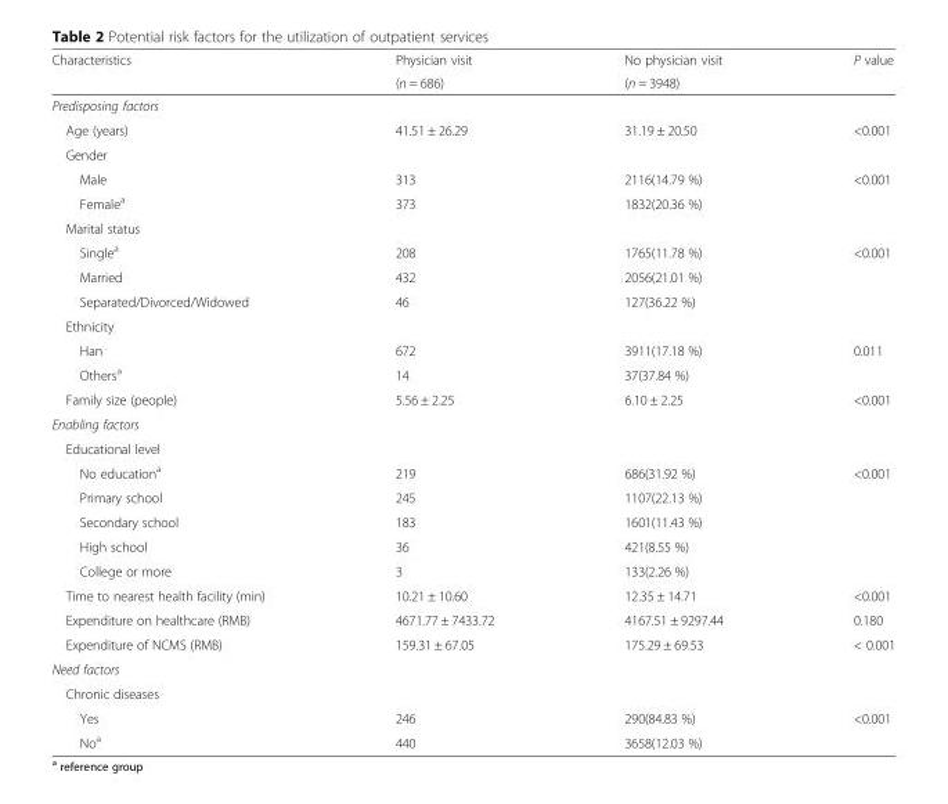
<table><thead><tr><td rowspan="2">Characteristics</td><td rowspan="2">Physician visit (n = 686)</td><td rowspan="2">No physician visit (n = 3948)</td><td rowspan="2">P value</td></tr><tr></tr></thead><tbody><tr><td colspan="4">Predisposing factors</td></tr><tr><td>Age (years)</td><td>41.51 ± 26.29</td><td>31.19 ± 20.50</td><td>&lt;0.001</td></tr><tr><td colspan="4">Gender</td></tr><tr><td>Male</td><td>313</td><td>2116(14.79 %)</td><td rowspan="2">&lt;0.001</td></tr><tr><td>Female<sup>a</sup></td><td>373</td><td>1832(20.36 %)</td></tr><tr><td colspan="4">Marital status</td></tr><tr><td>Single<sup>a</sup></td><td>208</td><td>1765(11.78 %)</td><td rowspan="3">&lt;0.001</td></tr><tr><td>Married</td><td>432</td><td>2056(21.01 %)</td></tr><tr><td>Separated/Divorced/Widowed</td><td>46</td><td>127(36.22 %)</td></tr><tr><td colspan="4">Ethnicity</td></tr><tr><td>Han</td><td>672</td><td>3911(17.18 %)</td><td rowspan="2">0.011</td></tr><tr><td>Others<sup>a</sup></td><td>14</td><td>37(37.84 %)</td></tr><tr><td>Family size (people)</td><td>5.56 ± 2.25</td><td>6.10 ± 2.25</td><td>&lt;0.001</td></tr><tr><td colspan="4">Enabling factors</td></tr><tr><td colspan="4">Educational level</td></tr><tr><td>No education<sup>a</sup></td><td>219</td><td>686(31.92 %)</td><td rowspan="5">&lt;0.001</td></tr><tr><td>Primary school</td><td>245</td><td>1107(22.13 %)</td></tr><tr><td>Secondary school</td><td>183</td><td>1601(11.43 %)</td></tr><tr><td>High school</td><td>36</td><td>421(8.55 %)</td></tr><tr><td>College or more</td><td>3</td><td>133(2.26 %)</td></tr><tr><td>Time to nearest health facility (min)</td><td>10.21 ± 10.60</td><td>12.35 ± 14.71</td><td>&lt;0.001</td></tr><tr><td>Expenditure on healthcare (RMB)</td><td>4671.77 ± 7433.72</td><td>4167.51 ± 9297.44</td><td>0.180</td></tr><tr><td>Expenditure of NCMS (RMB)</td><td>159.31 ± 67.05</td><td>175.29 ± 69.53</td><td>&lt; 0.001</td></tr><tr><td colspan="4">Need factors</td></tr><tr><td colspan="4">Chronic diseases</td></tr><tr><td>Yes</td><td>246</td><td>290(84.83 %)</td><td rowspan="2">&lt;0.001</td></tr><tr><td>No<sup>a</sup></td><td>440</td><td>3658(12.03 %)</td></tr></tbody></table>